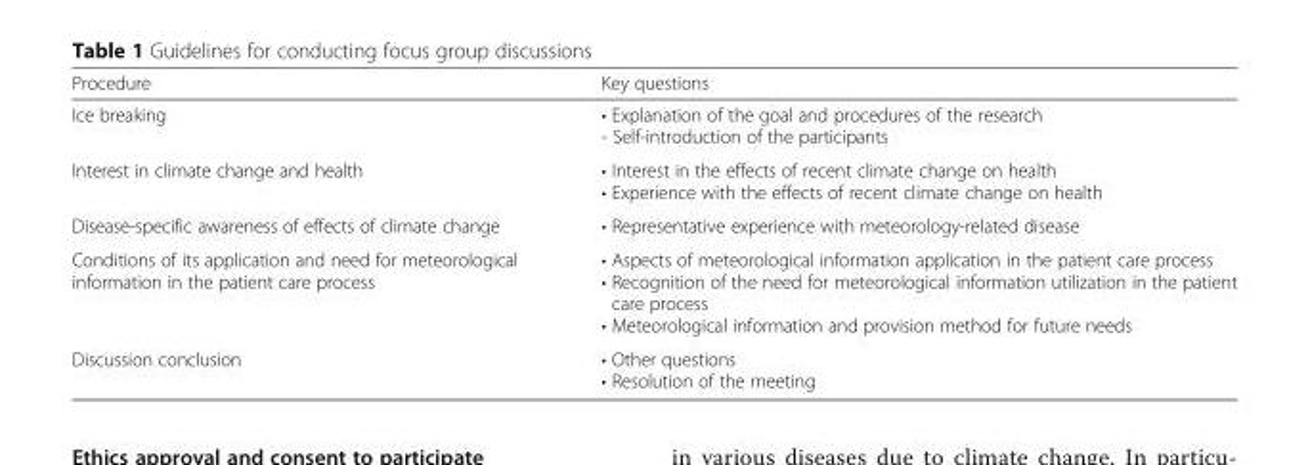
<table><thead><tr><td>Procedure</td><td>Key questions</td></tr></thead><tbody><tr><td>Ice breaking</td><td>• Explanation of the goal and procedures of the research - Self-introduction of the participants</td></tr><tr><td>Interest in climate change and health</td><td>• Interest in the effects of recent climate change on health • Experience with the effects of recent climate change on health</td></tr><tr><td>Disease-specific awareness of effects of climate change</td><td>• Representative experience with meteorology-related disease</td></tr><tr><td>Conditions of its application and need for meteorological information in the patient care process</td><td>• Aspects of meteorological information application in the patient care process • Recognition of the need for meteorological information utilization in the patient care process • Meteorological information and provision method for future needs</td></tr><tr><td>Discussion conclusion</td><td>• Other questions • Resolution of the meeting</td></tr></tbody></table>